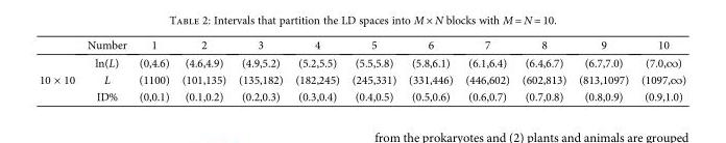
<table><thead><tr><td></td><td>Number</td><td>1</td><td>2</td><td>3</td><td>4</td><td>5</td><td>6</td><td>7</td><td>8</td><td>9</td><td>10</td></tr></thead><tbody><tr><td rowspan="3">10 × 10</td><td>ln(L)</td><td>(0,4.6)</td><td>(4.6,4.9)</td><td>(4.9,5.2)</td><td>(5.2,5.5)</td><td>(5.5,5.8)</td><td>(5.8,6.1)</td><td>(6.1,6.4)</td><td>(6.4,6.7)</td><td>(6.7,7.0)</td><td>(7.0,∞)</td></tr><tr><td>L</td><td>(1100)</td><td>(101,135)</td><td>(135,182)</td><td>(182,245)</td><td>(245,331)</td><td>(331,446)</td><td>(446,602)</td><td>(602,813)</td><td>(813,1097)</td><td>(1097,∞)</td></tr><tr><td>ID%</td><td>(0,0.1)</td><td>(0.1,0.2)</td><td>(0.2,0.3)</td><td>(0.3,0.4)</td><td>(0.4,0.5)</td><td>(0.5,0.6)</td><td>(0.6,0.7)</td><td>(0.7,0.8)</td><td>(0.8,0.9)</td><td>(0.9,1.0)</td></tr></tbody></table>